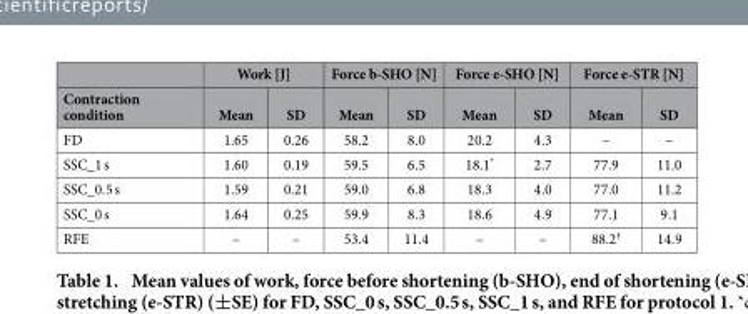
<table><thead><tr><td rowspan="2">Contraction condition</td><td colspan="2">Work [J]</td><td colspan="2">Force b-SHO [N]</td><td colspan="2">Force e-SHO [N]</td><td colspan="2">Force e-STR [N]</td></tr><tr><td>Mean</td><td>SD</td><td>Mean</td><td>SD</td><td>Mean</td><td>SD</td><td>Mean</td><td>SD</td></tr></thead><tbody><tr><td>FD</td><td>1.65</td><td>0.26</td><td>58.2</td><td>8.0</td><td>20.2</td><td>4.3</td><td>–</td><td>–</td></tr><tr><td>SSC_1 s</td><td>1.60</td><td>0.19</td><td>59.5</td><td>6.5</td><td>18.1*</td><td>2.7</td><td>77.9</td><td>11.0</td></tr><tr><td>SSC_0.5 s</td><td>1.59</td><td>0.21</td><td>59.0</td><td>6.8</td><td>18.3</td><td>4.0</td><td>77.0</td><td>11.2</td></tr><tr><td>SSC_0 s</td><td>1.64</td><td>0.25</td><td>59.9</td><td>8.3</td><td>18.6</td><td>4.9</td><td>77.1</td><td>9.1</td></tr><tr><td>RFE</td><td>–</td><td>–</td><td>53.4</td><td>11.4</td><td>–</td><td>–</td><td>88.2†</td><td>14.9</td></tr></tbody></table>